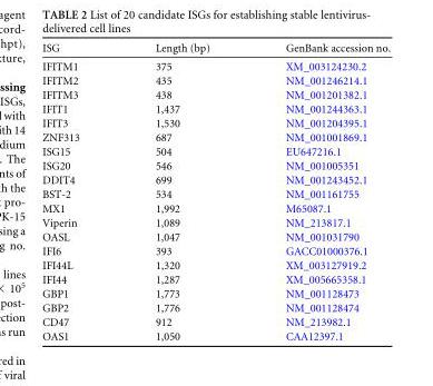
<table><thead><tr><td>ISG</td><td>Length (bp)</td><td>GenBank accession no.</td></tr></thead><tbody><tr><td>IFITM1</td><td>375</td><td>XM_003124230.2</td></tr><tr><td>IFITM2</td><td>435</td><td>NM_001246214.1</td></tr><tr><td>IFITM3</td><td>438</td><td>NM_001201382.1</td></tr><tr><td>IFIT1</td><td>1,437</td><td>NM_001244363.1</td></tr><tr><td>IFIT3</td><td>1,530</td><td>NM_001204395.1</td></tr><tr><td>ZNF313</td><td>687</td><td>NM_001001869.1</td></tr><tr><td>ISG15</td><td>504</td><td>EU647216.1</td></tr><tr><td>ISG20</td><td>546</td><td>NM_001005351</td></tr><tr><td>DDIT4</td><td>699</td><td>NM_001243452.1</td></tr><tr><td>BST-2</td><td>534</td><td>NM_001161755</td></tr><tr><td>MX1</td><td>1,992</td><td>M65087.1</td></tr><tr><td>Viperin</td><td>1,089</td><td>NM_213817.1</td></tr><tr><td>OASL</td><td>1,047</td><td>NM_001031790</td></tr><tr><td>IFI6</td><td>393</td><td>GACC01000376.1</td></tr><tr><td>IFI44L</td><td>1,320</td><td>XM_003127919.2</td></tr><tr><td>IFI44</td><td>1,287</td><td>XM_005665358.1</td></tr><tr><td>GBP1</td><td>1,773</td><td>NM_001128473</td></tr><tr><td>GBP2</td><td>1,776</td><td>NM_001128474</td></tr><tr><td>CD47</td><td>912</td><td>NM_213982.1</td></tr><tr><td>OAS1</td><td>1,050</td><td>CAA12397.1</td></tr></tbody></table>